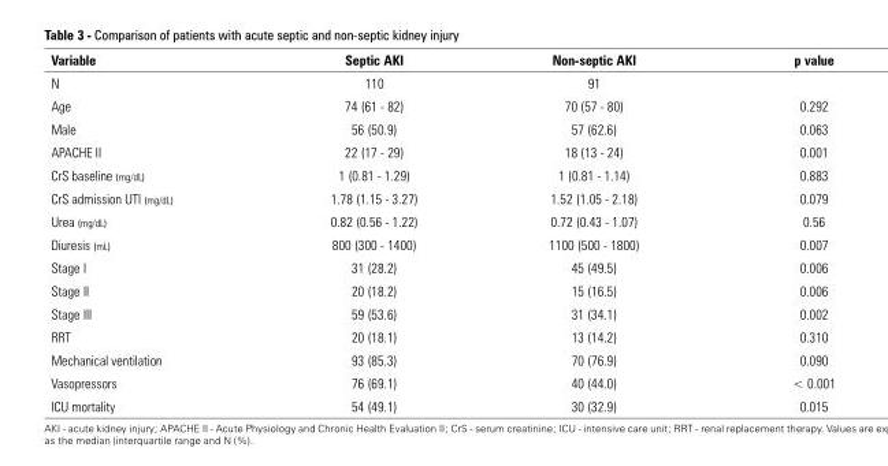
<table><thead><tr><td>Variable</td><td>Septic AKI</td><td>Non-septic AKI</td><td>p value</td></tr></thead><tbody><tr><td>N</td><td>110</td><td>91</td><td></td></tr><tr><td>Age</td><td>74 (61 - 82)</td><td>70 (57 - 80)</td><td>0.292</td></tr><tr><td>Male</td><td>56 (50.9)</td><td>57 (62.6)</td><td>0.063</td></tr><tr><td>APACHE II</td><td>22 (17 - 29)</td><td>18 (13 - 24)</td><td>0.001</td></tr><tr><td>CrS baseline (mg/dL)</td><td>1 (0.81 - 1.29)</td><td>1 (0.81 - 1.14)</td><td>0.883</td></tr><tr><td>CrS admission UTI (mg/dL)</td><td>1.78 (1.15 - 3.27)</td><td>1.52 (1.05 - 2.18)</td><td>0.079</td></tr><tr><td>Urea (mg/dL)</td><td>0.82 (0.56 - 1.22)</td><td>0.72 (0.43 - 1.07)</td><td>0.56</td></tr><tr><td>Diuresis (mL)</td><td>800 (300 - 1400)</td><td>1100 (500 - 1800)</td><td>0.007</td></tr><tr><td>Stage I</td><td>31 (28.2)</td><td>45 (49.5)</td><td>0.006</td></tr><tr><td>Stage II</td><td>20 (18.2)</td><td>15 (16.5)</td><td>0.006</td></tr><tr><td>Stage III</td><td>59 (53.6)</td><td>31 (34.1)</td><td>0.002</td></tr><tr><td>RRT</td><td>20 (18.1)</td><td>13 (14.2)</td><td>0.310</td></tr><tr><td>Mechanical ventilation</td><td>93 (85.3)</td><td>70 (76.9)</td><td>0.090</td></tr><tr><td>Vasopressors</td><td>76 (69.1)</td><td>40 (44.0)</td><td>&lt; 0.001</td></tr><tr><td>ICU mortality</td><td>54 (49.1)</td><td>30 (32.9)</td><td>0.015</td></tr></tbody></table>